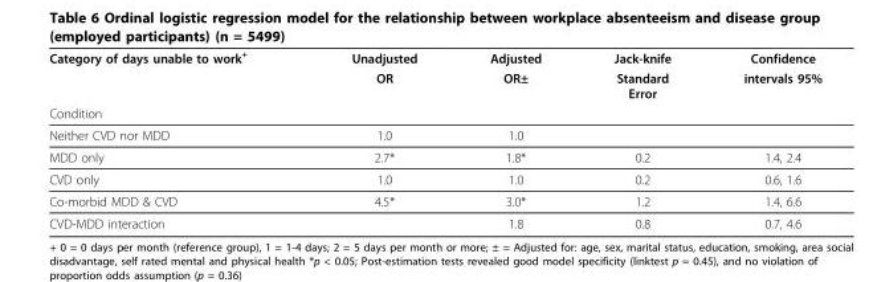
<table><thead><tr><td rowspan="3">Category of days unable to work+ Condition</td><td rowspan="3">Unadjusted OR</td><td rowspan="3">Adjusted OR±</td><td rowspan="3">Jack-knife Standard Error</td><td rowspan="3">Confidence intervals 95%</td></tr><tr></tr><tr></tr></thead><tbody><tr><td>Neither CVD nor MDD</td><td>1.0</td><td>1.0</td><td></td><td></td></tr><tr><td>MDD only</td><td>2.7*</td><td>1.8*</td><td>0.2</td><td>1.4, 2.4</td></tr><tr><td>CVD only</td><td>1.0</td><td>1.0</td><td>0.2</td><td>0.6, 1.6</td></tr><tr><td>Co-morbid MDD &amp; CVD</td><td>4.5*</td><td>3.0*</td><td>1.2</td><td>1.4, 6.6</td></tr><tr><td>CVD-MDD interaction</td><td></td><td>1.8</td><td>0.8</td><td>0.7, 4.6</td></tr></tbody></table>